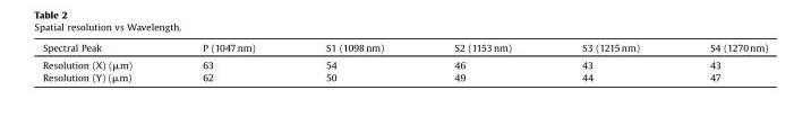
<table><thead><tr><td>Spectral Peak</td><td>P (1047 nm)</td><td>S1 (1098 nm)</td><td>S2 (1153 nm)</td><td>S3 (1215 nm)</td><td>S4 (1270 nm)</td></tr></thead><tbody><tr><td>Resolution (X) (μm)</td><td>63</td><td>54</td><td>46</td><td>43</td><td>43</td></tr><tr><td>Resolution (Y) (μm)</td><td>62</td><td>50</td><td>49</td><td>44</td><td>47</td></tr></tbody></table>